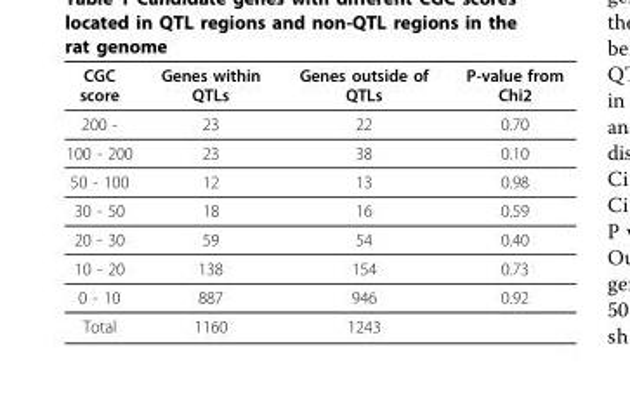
<table><thead><tr><td>CGC score</td><td>Genes within QTLs</td><td>Genes outside of QTLs</td><td>P-value from Chi2</td></tr></thead><tbody><tr><td>200 -</td><td>23</td><td>22</td><td>0.70</td></tr><tr><td>100 - 200</td><td>23</td><td>38</td><td>0.10</td></tr><tr><td>50 - 100</td><td>12</td><td>13</td><td>0.98</td></tr><tr><td>30 - 50</td><td>18</td><td>16</td><td>0.59</td></tr><tr><td>20 - 30</td><td>59</td><td>54</td><td>0.40</td></tr><tr><td>10 - 20</td><td>138</td><td>154</td><td>0.73</td></tr><tr><td>0 - 10</td><td>887</td><td>946</td><td>0.92</td></tr><tr><td>Total</td><td>1160</td><td>1243</td><td></td></tr></tbody></table>